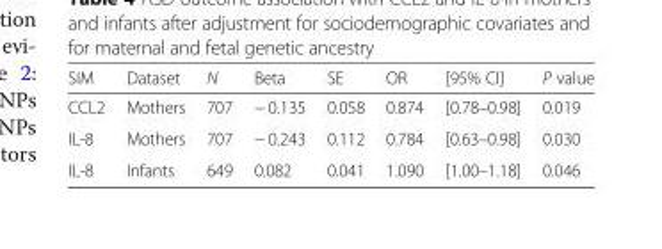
<table><thead><tr><td>SIM</td><td>Dataset</td><td>N</td><td>Beta</td><td>SE</td><td>OR</td><td>[95% CI]</td><td>P value</td></tr></thead><tbody><tr><td>CCL2</td><td>Mothers</td><td>707</td><td>− 0.135</td><td>0.058</td><td>0.874</td><td>[0.78–0.98]</td><td>0.019</td></tr><tr><td>IL-8</td><td>Mothers</td><td>707</td><td>− 0.243</td><td>0.112</td><td>0.784</td><td>[0.63–0.98]</td><td>0.030</td></tr><tr><td>IL-8</td><td>Infants</td><td>649</td><td>0.082</td><td>0.041</td><td>1.090</td><td>[1.00–1.18]</td><td>0.046</td></tr></tbody></table>